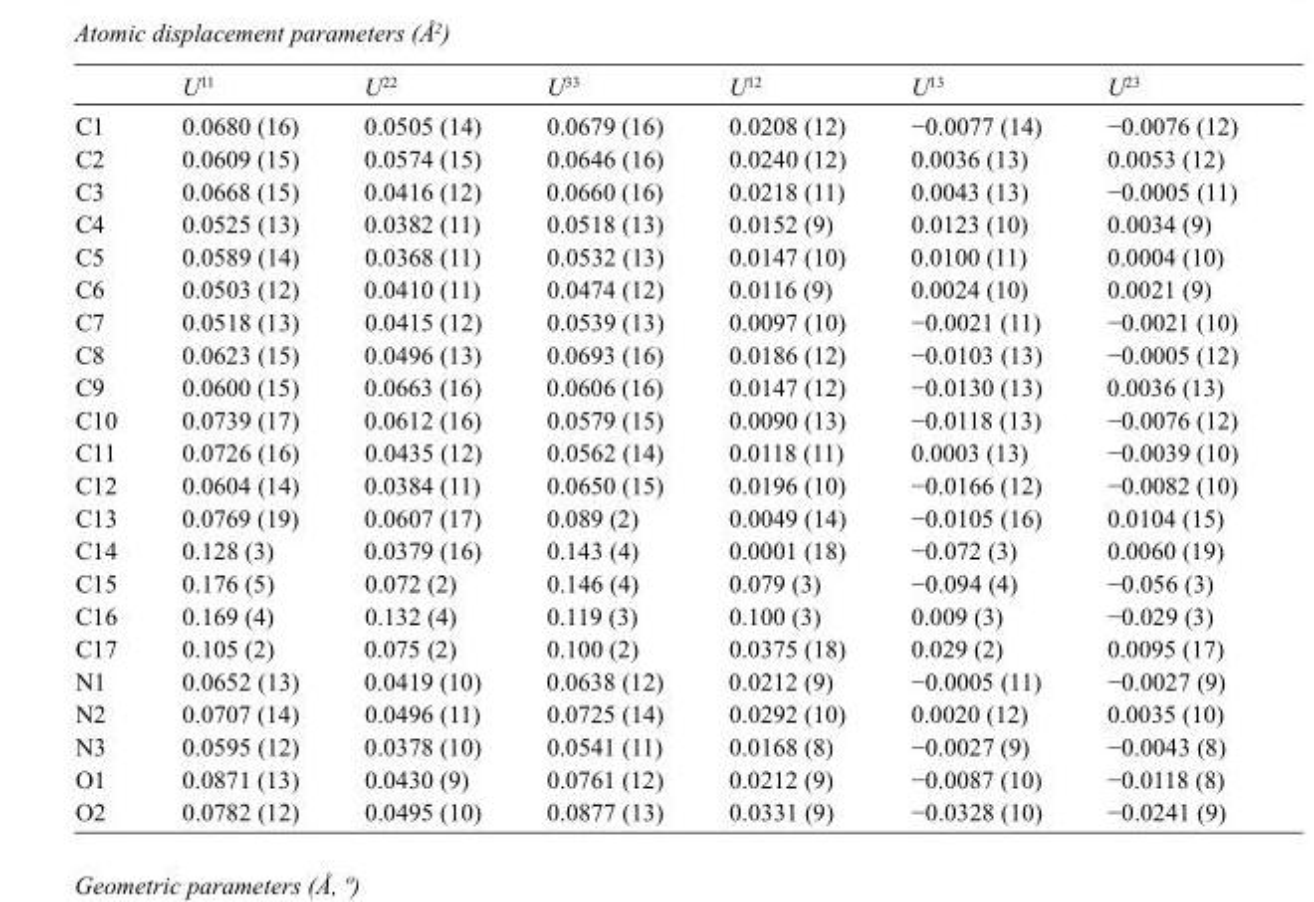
<table><thead><tr><td></td><td>U<sup>11</sup></td><td>U<sup>22</sup></td><td>U<sup>33</sup></td><td>U<sup>12</sup></td><td>U<sup>13</sup></td><td>U<sup>23</sup></td></tr></thead><tbody><tr><td>C1</td><td>0.0680 (16)</td><td>0.0505 (14)</td><td>0.0679 (16)</td><td>0.0208 (12)</td><td>−0.0077 (14)</td><td>−0.0076 (12)</td></tr><tr><td>C2</td><td>0.0609 (15)</td><td>0.0574 (15)</td><td>0.0646 (16)</td><td>0.0240 (12)</td><td>0.0036 (13)</td><td>0.0053 (12)</td></tr><tr><td>C3</td><td>0.0668 (15)</td><td>0.0416 (12)</td><td>0.0660 (16)</td><td>0.0218 (11)</td><td>0.0043 (13)</td><td>−0.0005 (11)</td></tr><tr><td>C4</td><td>0.0525 (13)</td><td>0.0382 (11)</td><td>0.0518 (13)</td><td>0.0152 (9)</td><td>0.0123 (10)</td><td>0.0034 (9)</td></tr><tr><td>C5</td><td>0.0589 (14)</td><td>0.0368 (11)</td><td>0.0532 (13)</td><td>0.0147 (10)</td><td>0.0100 (11)</td><td>0.0004 (10)</td></tr><tr><td>C6</td><td>0.0503 (12)</td><td>0.0410 (11)</td><td>0.0474 (12)</td><td>0.0116 (9)</td><td>0.0024 (10)</td><td>0.0021 (9)</td></tr><tr><td>C7</td><td>0.0518 (13)</td><td>0.0415 (12)</td><td>0.0539 (13)</td><td>0.0097 (10)</td><td>−0.0021 (11)</td><td>−0.0021 (10)</td></tr><tr><td>C8</td><td>0.0623 (15)</td><td>0.0496 (13)</td><td>0.0693 (16)</td><td>0.0186 (12)</td><td>−0.0103 (13)</td><td>−0.0005 (12)</td></tr><tr><td>C9</td><td>0.0600 (15)</td><td>0.0663 (16)</td><td>0.0606 (16)</td><td>0.0147 (12)</td><td>−0.0130 (13)</td><td>0.0036 (13)</td></tr><tr><td>C10</td><td>0.0739 (17)</td><td>0.0612 (16)</td><td>0.0579 (15)</td><td>0.0090 (13)</td><td>−0.0118 (13)</td><td>−0.0076 (12)</td></tr><tr><td>C11</td><td>0.0726 (16)</td><td>0.0435 (12)</td><td>0.0562 (14)</td><td>0.0118 (11)</td><td>0.0003 (13)</td><td>−0.0039 (10)</td></tr><tr><td>C12</td><td>0.0604 (14)</td><td>0.0384 (11)</td><td>0.0650 (15)</td><td>0.0196 (10)</td><td>−0.0166 (12)</td><td>−0.0082 (10)</td></tr><tr><td>C13</td><td>0.0769 (19)</td><td>0.0607 (17)</td><td>0.089 (2)</td><td>0.0049 (14)</td><td>−0.0105 (16)</td><td>0.0104 (15)</td></tr><tr><td>C14</td><td>0.128 (3)</td><td>0.0379 (16)</td><td>0.143 (4)</td><td>0.0001 (18)</td><td>−0.072 (3)</td><td>0.0060 (19)</td></tr><tr><td>C15</td><td>0.176 (5)</td><td>0.072 (2)</td><td>0.146 (4)</td><td>0.079 (3)</td><td>−0.094 (4)</td><td>−0.056 (3)</td></tr><tr><td>C16</td><td>0.169 (4)</td><td>0.132 (4)</td><td>0.119 (3)</td><td>0.100 (3)</td><td>0.009 (3)</td><td>−0.029 (3)</td></tr><tr><td>C17</td><td>0.105 (2)</td><td>0.075 (2)</td><td>0.100 (2)</td><td>0.0375 (18)</td><td>0.029 (2)</td><td>0.0095 (17)</td></tr><tr><td>N1</td><td>0.0652 (13)</td><td>0.0419 (10)</td><td>0.0638 (12)</td><td>0.0212 (9)</td><td>−0.0005 (11)</td><td>−0.0027 (9)</td></tr><tr><td>N2</td><td>0.0707 (14)</td><td>0.0496 (11)</td><td>0.0725 (14)</td><td>0.0292 (10)</td><td>0.0020 (12)</td><td>0.0035 (10)</td></tr><tr><td>N3</td><td>0.0595 (12)</td><td>0.0378 (10)</td><td>0.0541 (11)</td><td>0.0168 (8)</td><td>−0.0027 (9)</td><td>−0.0043 (8)</td></tr><tr><td>O1</td><td>0.0871 (13)</td><td>0.0430 (9)</td><td>0.0761 (12)</td><td>0.0212 (9)</td><td>−0.0087 (10)</td><td>−0.0118 (8)</td></tr><tr><td>O2</td><td>0.0782 (12)</td><td>0.0495 (10)</td><td>0.0877 (13)</td><td>0.0331 (9)</td><td>−0.0328 (10)</td><td>−0.0241 (9)</td></tr></tbody></table>